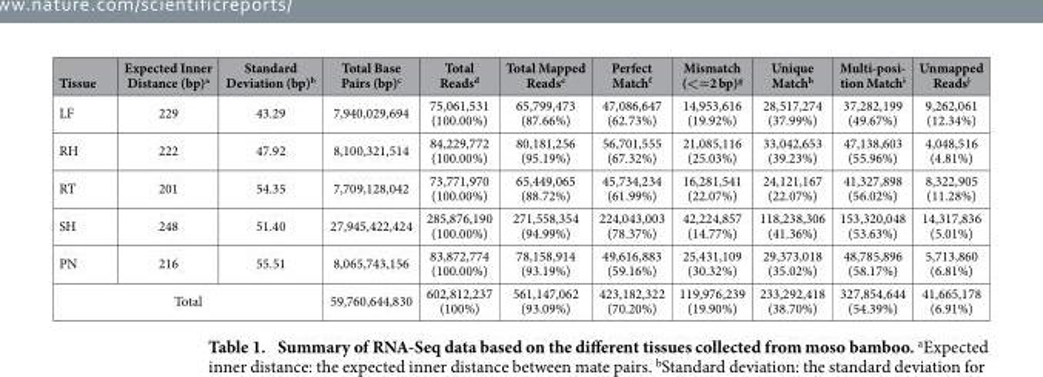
<table><thead><tr><td>Tissue</td><td>Expected Inner Distance (bp)<sup>a</sup></td><td>Standard Deviation (bp)<sup>b</sup></td><td>Total Base Pairs (bp)<sup>c</sup></td><td>Total Reads<sup>d</sup></td><td>Total Mapped Reads<sup>e</sup></td><td>Perfect Match<sup>f</sup></td><td>Mismatch (&lt;=2 bp)<sup>g</sup></td><td>Unique Match<sup>h</sup></td><td>Multi-posi- tion Matchi</td><td>Unmapped Reads<sup>j</sup></td></tr></thead><tbody><tr><td>LF</td><td>229</td><td>43.29</td><td>7,940,029,694</td><td>75,061,531 (100.00%)</td><td>65,799,473 (87.66%)</td><td>47,086,647 (62.73%)</td><td>14,953,616 (19.92%)</td><td>28,517,274 (37.99%)</td><td>37,282,199 (49.67%)</td><td>9,262,061 (12.34%)</td></tr><tr><td>RH</td><td>222</td><td>47.92</td><td>8,100,321,514</td><td>84,229,772 (100.00%)</td><td>80,181,256 (95.19%)</td><td>56,701,555 (67.32%)</td><td>21,085,116 (25.03%)</td><td>33,042,653 (39.23%)</td><td>47,138,603 (55.96%)</td><td>4,048,516 (4.81%)</td></tr><tr><td>RT</td><td>201</td><td>54.35</td><td>7,709,128,042</td><td>73,771,970 (100.00%)</td><td>65,449,065 (88.72%)</td><td>45,734,234 (61.99%)</td><td>16,281,541 (22.07%)</td><td>24,121,167 (22.07%)</td><td>41,327,898 (56.02%)</td><td>8,322,905 (11.28%)</td></tr><tr><td>SH</td><td>248</td><td>51.40</td><td>27,945,422,424</td><td>285,876,190 (100.00%)</td><td>271,558,354 (94.99%)</td><td>224,043,003 (78.37%)</td><td>42,224,857 (14.77%)</td><td>118,238,306 (41.36%)</td><td>153,320,048 (53.63%)</td><td>14,317,836 (5.01%)</td></tr><tr><td>PN</td><td>216</td><td>55.51</td><td>8,065,743,156</td><td>83,872,774 (100.00%)</td><td>78,158,914 (93.19%)</td><td>49,616,883 (59.16%)</td><td>25,431,109 (30.32%)</td><td>29,373,018 (35.02%)</td><td>48,785,896 (58.17%)</td><td>5,713,860 (6.81%)</td></tr><tr><td colspan="3">Total</td><td>59,760,644,830</td><td>602,812,237 (100%)</td><td>561,147,062 (93.09%)</td><td>423,182,322 (70.20%)</td><td>119,976,239 (19.90%)</td><td>233,292,418 (38.70%)</td><td>327,854,644 (54.39%)</td><td>41,665,178 (6.91%)</td></tr></tbody></table>